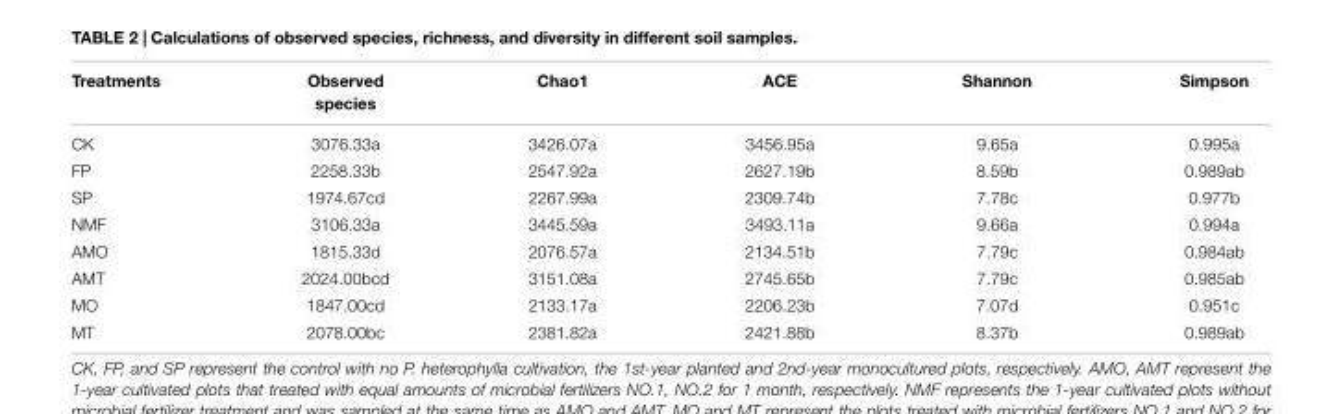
<table><thead><tr><td>Treatments</td><td>Observed species</td><td>Chao1</td><td>ACE</td><td>Shannon</td><td>Simpson</td></tr></thead><tbody><tr><td>CK</td><td>3076.33a</td><td>3426.07a</td><td>3456.95a</td><td>9.65a</td><td>0.995a</td></tr><tr><td>FP</td><td>2258.33b</td><td>2547.92a</td><td>2627.19b</td><td>8.59b</td><td>0.989ab</td></tr><tr><td>SP</td><td>1974.67cd</td><td>2267.99a</td><td>2309.74b</td><td>7.78c</td><td>0.977b</td></tr><tr><td>NMF</td><td>3106.33a</td><td>3445.59a</td><td>3493.11a</td><td>9.66a</td><td>0.994a</td></tr><tr><td>AMO</td><td>1815.33d</td><td>2076.57a</td><td>2134.51b</td><td>7.79c</td><td>0.984ab</td></tr><tr><td>AMT</td><td>2024.00bcd</td><td>3151.08a</td><td>2745.65b</td><td>7.79c</td><td>0.985ab</td></tr><tr><td>MO</td><td>1847.00cd</td><td>2133.17a</td><td>2206.23b</td><td>7.07d</td><td>0.951c</td></tr><tr><td>MT</td><td>2078.00bc</td><td>2381.82a</td><td>2421.88b</td><td>8.37b</td><td>0.989ab</td></tr></tbody></table>